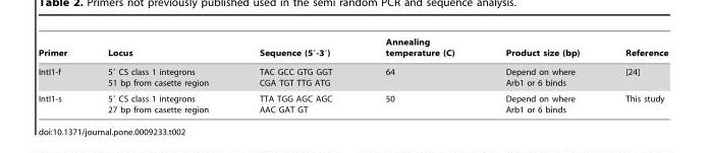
<table><thead><tr><td>Primer</td><td>Locus</td><td>Sequence (5′-3′)</td><td>Annealing temperature (C)</td><td>Product size (bp)</td><td>Reference</td></tr></thead><tbody><tr><td>IntI1-f</td><td>5′ CS class 1 integrons 51 bp from casette region</td><td>TAC GCC GTG GGT CGA TGT TTG ATG</td><td>64</td><td>Depend on where Arb1 or 6 binds</td><td>[24]</td></tr><tr><td>IntI1-s</td><td>5′ CS class 1 integrons 27 bp from casette region</td><td>TTA TGG AGC AGC AAC GAT GT</td><td>50</td><td>Depend on where Arb1 or 6 binds</td><td>This study</td></tr></tbody></table>